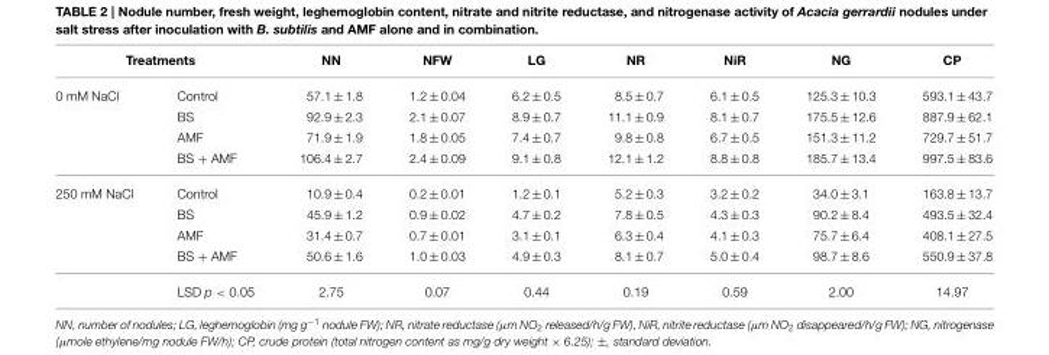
<table><thead><tr><td colspan="2">Treatments</td><td rowspan="2">NN 57.1 ± 1.8</td><td rowspan="2">NFW 1.2 ± 0.04</td><td rowspan="2">LG 6.2 ± 0.5</td><td rowspan="2">NR 8.5 ± 0.7</td><td rowspan="2">NiR 6.1 ± 0.5</td><td rowspan="2">NG 125.3 ± 10.3</td><td rowspan="2">CP 593.1 ± 43.7</td></tr><tr><td>0 mM NaCl</td><td>Control</td></tr></thead><tbody><tr><td></td><td>BS</td><td>92.9 ± 2.3</td><td>2.1 ± 0.07</td><td>8.9 ± 0.7</td><td>11.1 ± 0.9</td><td>8.1 ± 0.7</td><td>175.5 ± 12.6</td><td>887.9 ± 62.1</td></tr><tr><td></td><td>AMF</td><td>71.9 ± 1.9</td><td>1.8 ± 0.05</td><td>7.4 ± 0.7</td><td>9.8 ± 0.8</td><td>6.7 ± 0.5</td><td>151.3 ± 11.2</td><td>729.7 ± 51.7</td></tr><tr><td></td><td>BS + AMF</td><td>106.4 ± 2.7</td><td>2.4 ± 0.09</td><td>9.1 ± 0.8</td><td>12.1 ± 1.2</td><td>8.8 ± 0.8</td><td>185.7 ± 13.4</td><td>997.5 ± 83.6</td></tr><tr><td rowspan="5">250 mM NaCl</td><td>Control</td><td>10.9 ± 0.4</td><td>0.2 ± 0.01</td><td>1.2 ± 0.1</td><td>5.2 ± 0.3</td><td>3.2 ± 0.2</td><td>34.0 ± 3.1</td><td>163.8 ± 13.7</td></tr><tr><td>BS</td><td>45.9 ± 1.2</td><td>0.9 ± 0.02</td><td>4.7 ± 0.2</td><td>7.8 ± 0.5</td><td>4.3 ± 0.3</td><td>90.2 ± 8.4</td><td>493.5 ± 32.4</td></tr><tr><td>AMF</td><td>31.4 ± 0.7</td><td>0.7 ± 0.01</td><td>3.1 ± 0.1</td><td>6.3 ± 0.4</td><td>4.1 ± 0.3</td><td>75.7 ± 6.4</td><td>408.1 ± 27.5</td></tr><tr><td>BS + AMF</td><td>50.6 ± 1.6</td><td>1.0 ± 0.03</td><td>4.9 ± 0.3</td><td>8.1 ± 0.7</td><td>5.0 ± 0.4</td><td>98.7 ± 8.6</td><td>550.9 ± 37.8</td></tr><tr><td>LSD p &lt; 0.05</td><td>2.75</td><td>0.07</td><td>0.44</td><td>0.19</td><td>0.59</td><td>2.00</td><td>14.97</td></tr></tbody></table>